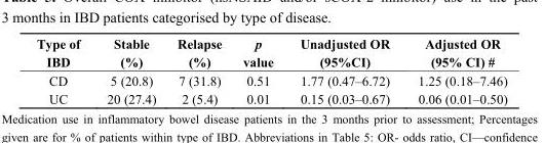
<table><thead><tr><td>Type of IBD</td><td>Stable (%)</td><td>Relapse (%)</td><td>p value</td><td>Unadjusted OR (95%CI)</td><td>Adjusted OR (95% CI) #</td></tr></thead><tbody><tr><td>CD</td><td>5 (20.8)</td><td>7 (31.8)</td><td>0.51</td><td>1.77 (0.47–6.72)</td><td>1.25 (0.18–7.46)</td></tr><tr><td>UC</td><td>20 (27.4)</td><td>2 (5.4)</td><td>0.01</td><td>0.15 (0.03–0.67)</td><td>0.06 (0.01–0.50)</td></tr></tbody></table>